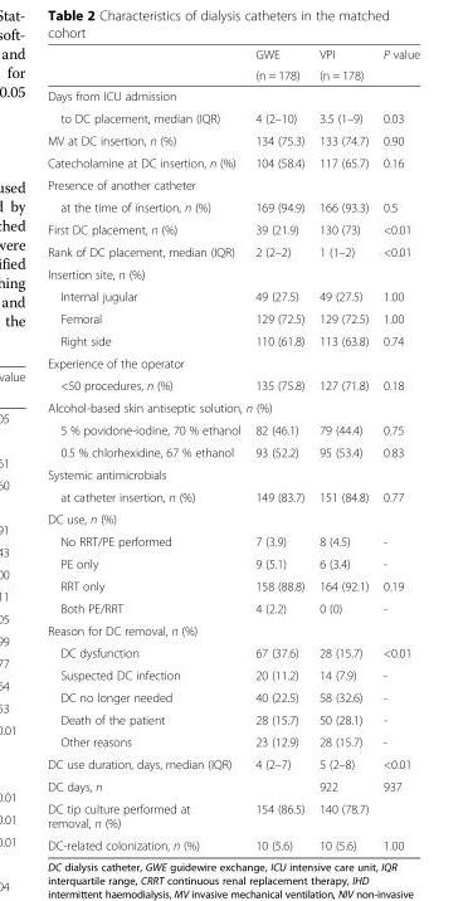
<table><thead><tr><td rowspan="2"></td><td rowspan="2">GWE (n = 178)</td><td rowspan="2">VPI (n = 178)</td><td rowspan="2">P value</td></tr><tr></tr></thead><tbody><tr><td colspan="4">Days from ICU admission</td></tr><tr><td>to DC placement, median (IQR)</td><td>4 (2–10)</td><td>3.5 (1–9)</td><td>0.03</td></tr><tr><td>MV at DC insertion, n (%)</td><td>134 (75.3)</td><td>133 (74.7)</td><td>0.90</td></tr><tr><td>Catecholamine at DC insertion, n (%)</td><td>104 (58.4)</td><td>117 (65.7)</td><td>0.16</td></tr><tr><td colspan="4">Presence of another catheter</td></tr><tr><td>at the time of insertion, n (%)</td><td>169 (94.9)</td><td>166 (93.3)</td><td>0.5</td></tr><tr><td>First DC placement, n (%)</td><td>39 (21.9)</td><td>130 (73)</td><td>&lt;0.01</td></tr><tr><td>Rank of DC placement, median (IQR)</td><td>2 (2–2)</td><td>1 (1–2)</td><td>&lt;0.01</td></tr><tr><td colspan="4">Insertion site, n (%)</td></tr><tr><td>Internal jugular</td><td>49 (27.5)</td><td>49 (27.5)</td><td>1.00</td></tr><tr><td>Femoral</td><td>129 (72.5)</td><td>129 (72.5)</td><td>1.00</td></tr><tr><td>Right side</td><td>110 (61.8)</td><td>113 (63.8)</td><td>0.74</td></tr><tr><td colspan="4">Experience of the operator</td></tr><tr><td>&lt;50 procedures, n (%)</td><td>135 (75.8)</td><td>127 (71.8)</td><td>0.18</td></tr><tr><td colspan="4">Alcohol-based skin antiseptic solution, n (%)</td></tr><tr><td>5 % povidone-iodine, 70 % ethanol</td><td>82 (46.1)</td><td>79 (44.4)</td><td>0.75</td></tr><tr><td>0.5 % chlorhexidine, 67 % ethanol</td><td>93 (52.2)</td><td>95 (53.4)</td><td>0.83</td></tr><tr><td colspan="4">Systemic antimicrobials</td></tr><tr><td>at catheter insertion, n (%)</td><td>149 (83.7)</td><td>151 (84.8)</td><td>0.77</td></tr><tr><td colspan="4">DC use, n (%)</td></tr><tr><td>No RRT/PE performed</td><td>7 (3.9)</td><td>8 (4.5)</td><td>-</td></tr><tr><td>PE only</td><td>9 (5.1)</td><td>6 (3.4)</td><td>-</td></tr><tr><td>RRT only</td><td>158 (88.8)</td><td>164 (92.1)</td><td>0.19</td></tr><tr><td>Both PE/RRT</td><td>4 (2.2)</td><td>0 (0)</td><td>-</td></tr><tr><td colspan="4">Reason for DC removal, n (%)</td></tr><tr><td>DC dysfunction</td><td>67 (37.6)</td><td>28 (15.7)</td><td>&lt;0.01</td></tr><tr><td>Suspected DC infection</td><td>20 (11.2)</td><td>14 (7.9)</td><td>-</td></tr><tr><td>DC no longer needed</td><td>40 (22.5)</td><td>58 (32.6)</td><td>-</td></tr><tr><td>Death of the patient</td><td>28 (15.7)</td><td>50 (28.1)</td><td>-</td></tr><tr><td>Other reasons</td><td>23 (12.9)</td><td>28 (15.7)</td><td>-</td></tr><tr><td>DC use duration, days, median (IQR)</td><td>4 (2–7)</td><td>5 (2–8)</td><td>&lt;0.01</td></tr><tr><td>DC days, n</td><td></td><td>922</td><td>937</td></tr><tr><td>DC tip culture performed at removal, n (%)</td><td>154 (86.5)</td><td>140 (78.7)</td><td></td></tr><tr><td>DC-related colonization, n (%)</td><td>10 (5.6)</td><td>10 (5.6)</td><td>1.00</td></tr></tbody></table>